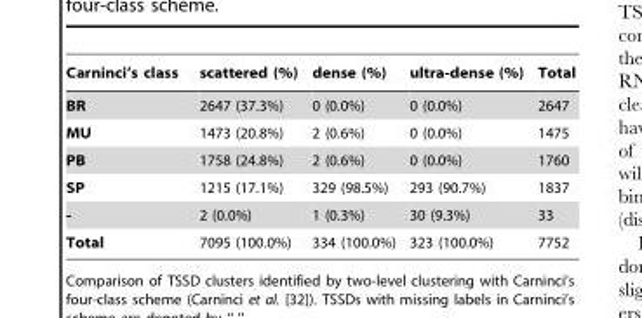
<table><thead><tr><td>Carninci’s class</td><td>scattered (%)</td><td>dense (%)</td><td>ultra-dense (%)</td><td>Total</td></tr></thead><tbody><tr><td>BR</td><td>2647 (37.3%)</td><td>0 (0.0%)</td><td>0 (0.0%)</td><td>2647</td></tr><tr><td>MU</td><td>1473 (20.8%)</td><td>2 (0.6%)</td><td>0 (0.0%)</td><td>1475</td></tr><tr><td>PB</td><td>1758 (24.8%)</td><td>2 (0.6%)</td><td>0 (0.0%)</td><td>1760</td></tr><tr><td>SP</td><td>1215 (17.1%)</td><td>329 (98.5%)</td><td>293 (90.7%)</td><td>1837</td></tr><tr><td>-</td><td>2 (0.0%)</td><td>1 (0.3%)</td><td>30 (9.3%)</td><td>33</td></tr><tr><td>Total</td><td>7095 (100.0%)</td><td>334 (100.0%)</td><td>323 (100.0%)</td><td>7752</td></tr></tbody></table>